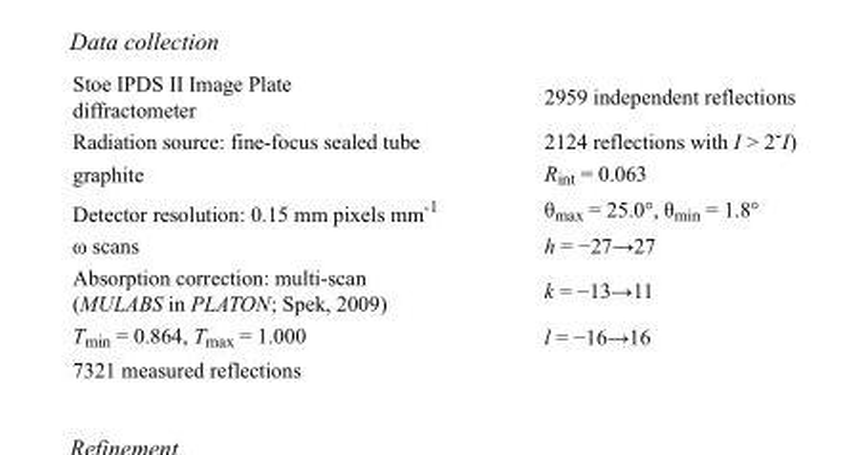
<table><tbody><tr><td>Stoe IPDS II Image Plate diffractometer</td><td>2959 independent reflections</td></tr><tr><td>Radiation source: fine-focus sealed tube</td><td>2124 reflections with I &gt; 2˘I)</td></tr><tr><td>graphite</td><td>R<sub>int</sub> = 0.063</td></tr><tr><td>Detector resolution: 0.15 mm pixels mm<sup>-1</sup></td><td>θ<sub>max</sub> = 25.0°, θ<sub>min</sub> = 1.8°</td></tr><tr><td>ω scans</td><td>h = −27→27</td></tr><tr><td>Absorption correction: multi-scan (MULABS in PLATON; Spek, 2009)</td><td>k = −13→11</td></tr><tr><td>T<sub>min</sub> = 0.864, T<sub>max</sub> = 1.000</td><td>l = −16→16</td></tr><tr><td>7321 measured reflections</td><td></td></tr></tbody></table>